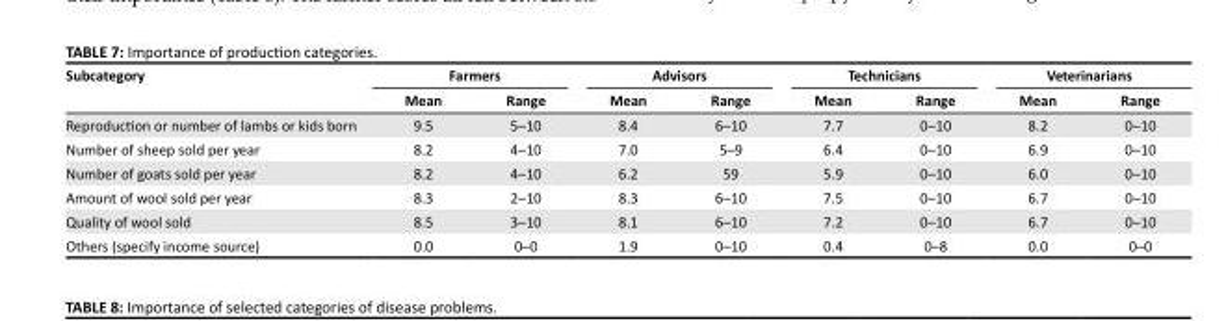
<table><thead><tr><td rowspan="2">Subcategory</td><td colspan="2">Farmers</td><td colspan="2">Advisors</td><td colspan="2">Technicians</td><td colspan="2">Veterinarians</td></tr><tr><td>Mean</td><td>Range</td><td>Mean</td><td>Range</td><td>Mean</td><td>Range</td><td>Mean</td><td>Range</td></tr></thead><tbody><tr><td>Reproduction or number of lambs or kids born</td><td>9.5</td><td>5–10</td><td>8.4</td><td>6–10</td><td>7.7</td><td>0–10</td><td>8.2</td><td>0–10</td></tr><tr><td>Number of sheep sold per year</td><td>8.2</td><td>4–10</td><td>7.0</td><td>5–9</td><td>6.4</td><td>0–10</td><td>6.9</td><td>0–10</td></tr><tr><td>Number of goats sold per year</td><td>8.2</td><td>4–10</td><td>6.2</td><td>59</td><td>5.9</td><td>0–10</td><td>6.0</td><td>0–10</td></tr><tr><td>Amount of wool sold per year</td><td>8.3</td><td>2–10</td><td>8.3</td><td>6–10</td><td>7.5</td><td>0–10</td><td>6.7</td><td>0–10</td></tr><tr><td>Quality of wool sold</td><td>8.5</td><td>3–10</td><td>8.1</td><td>6–10</td><td>7.2</td><td>0–10</td><td>6.7</td><td>0–10</td></tr><tr><td>Others (specify income source)</td><td>0.0</td><td>0–0</td><td>1.9</td><td>0–10</td><td>0.4</td><td>0–8</td><td>0.0</td><td>0–0</td></tr></tbody></table>